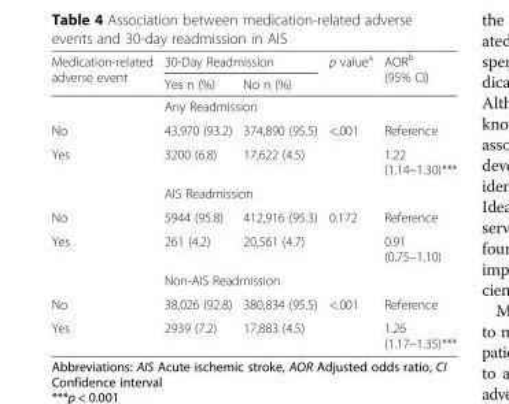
<table><thead><tr><td rowspan="2">Medication-related adverse event</td><td colspan="2">30-Day Readmission</td><td rowspan="2">p value<sup>a</sup></td><td rowspan="2">AOR<sup>b</sup> (95% CI)</td></tr><tr><td>Yes n (%)</td><td>No n (%)</td></tr></thead><tbody><tr><td></td><td colspan="2">Any Readmission</td><td></td><td></td></tr><tr><td>No</td><td>43,970 (93.2)</td><td>374,890 (95.5)</td><td rowspan="2">&lt;.001</td><td>Reference</td></tr><tr><td rowspan="2">Yes</td><td>3200 (6.8)</td><td>17,622 (4.5)</td><td>1.22 (1.14–1.30)***</td></tr><tr><td colspan="2">AIS Readmission</td><td></td><td></td></tr><tr><td>No</td><td>5944 (95.8)</td><td>412,916 (95.3)</td><td rowspan="2">0.172</td><td>Reference</td></tr><tr><td rowspan="2">Yes</td><td>261 (4.2)</td><td>20,561 (4.7)</td><td>0.91 (0.75–1.10)</td></tr><tr><td colspan="2">Non-AIS Readmission</td><td></td><td></td></tr><tr><td>No</td><td>38,026 (92.8)</td><td>380,834 (95.5)</td><td rowspan="2">&lt;.001</td><td>Reference</td></tr><tr><td>Yes</td><td>2939 (7.2)</td><td>17,883 (4.5)</td><td>1.26 (1.17–1.35)***</td></tr></tbody></table>